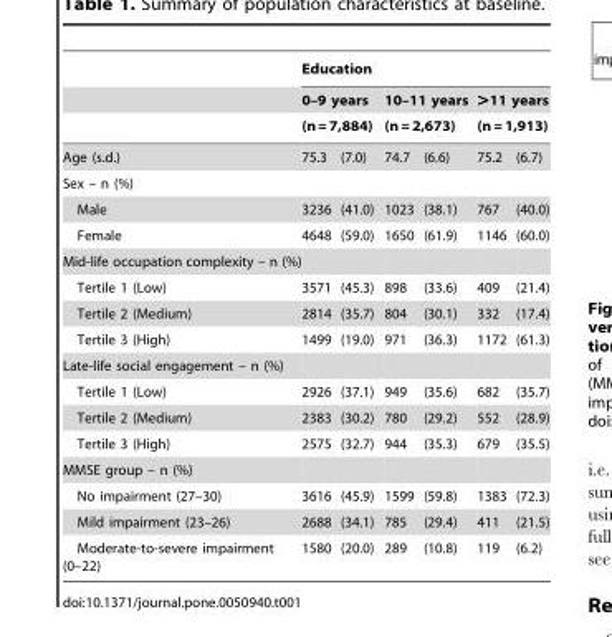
<table><thead><tr><td rowspan="4">Age (s.d.)</td><td colspan="6">Education</td></tr><tr><td rowspan="2" colspan="2">0–9 years (n = 7,884)</td><td rowspan="2" colspan="2">10–11 years (n = 2,673)</td><td rowspan="2" colspan="2">&gt;11 years (n = 1,913)</td></tr><tr></tr><tr><td>75.3</td><td>(7.0)</td><td>74.7</td><td>(6.6)</td><td>75.2</td><td>(6.7)</td></tr></thead><tbody><tr><td colspan="7">Sex – n (%)</td></tr><tr><td>Male</td><td>3236</td><td>(41.0)</td><td>1023</td><td>(38.1)</td><td>767</td><td>(40.0)</td></tr><tr><td>Female</td><td>4648</td><td>(59.0)</td><td>1650</td><td>(61.9)</td><td>1146</td><td>(60.0)</td></tr><tr><td colspan="7">Mid-life occupation complexity – n (%)</td></tr><tr><td>Tertile 1 (Low)</td><td>3571</td><td>(45.3)</td><td>898</td><td>(33.6)</td><td>409</td><td>(21.4)</td></tr><tr><td>Tertile 2 (Medium)</td><td>2814</td><td>(35.7)</td><td>804</td><td>(30.1)</td><td>332</td><td>(17.4)</td></tr><tr><td>Tertile 3 (High)</td><td>1499</td><td>(19.0)</td><td>971</td><td>(36.3)</td><td>1172</td><td>(61.3)</td></tr><tr><td colspan="7">Late-life social engagement – n (%)</td></tr><tr><td>Tertile 1 (Low)</td><td>2926</td><td>(37.1)</td><td>949</td><td>(35.6)</td><td>682</td><td>(35.7)</td></tr><tr><td>Tertile 2 (Medium)</td><td>2383</td><td>(30.2)</td><td>780</td><td>(29.2)</td><td>552</td><td>(28.9)</td></tr><tr><td>Tertile 3 (High)</td><td>2575</td><td>(32.7)</td><td>944</td><td>(35.3)</td><td>679</td><td>(35.5)</td></tr><tr><td colspan="7">MMSE group – n (%)</td></tr><tr><td>No impairment (27–30)</td><td>3616</td><td>(45.9)</td><td>1599</td><td>(59.8)</td><td>1383</td><td>(72.3)</td></tr><tr><td>Mild impairment (23–26)</td><td>2688</td><td>(34.1)</td><td>785</td><td>(29.4)</td><td>411</td><td>(21.5)</td></tr><tr><td>Moderate-to-severe impairment (0–22)</td><td>1580</td><td>(20.0)</td><td>289</td><td>(10.8)</td><td>119</td><td>(6.2)</td></tr></tbody></table>